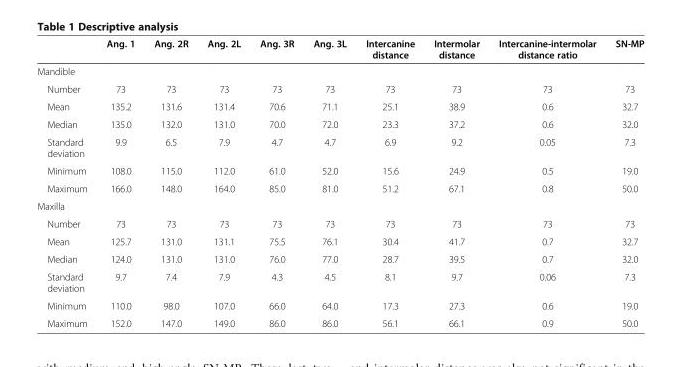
<table><thead><tr><td></td><td>Ang. 1</td><td>Ang. 2R</td><td>Ang. 2L</td><td>Ang. 3R</td><td>Ang. 3L</td><td>Intercanine distance</td><td>Intermolar distance</td><td>Intercanine-intermolar distance ratio</td><td>SN-MP</td></tr></thead><tbody><tr><td colspan="10">Mandible</td></tr><tr><td>Number</td><td>73</td><td>73</td><td>73</td><td>73</td><td>73</td><td>73</td><td>73</td><td>73</td><td>73</td></tr><tr><td>Mean</td><td>135.2</td><td>131.6</td><td>131.4</td><td>70.6</td><td>71.1</td><td>25.1</td><td>38.9</td><td>0.6</td><td>32.7</td></tr><tr><td>Median</td><td>135.0</td><td>132.0</td><td>131.0</td><td>70.0</td><td>72.0</td><td>23.3</td><td>37.2</td><td>0.6</td><td>32.0</td></tr><tr><td>Standard deviation</td><td>9.9</td><td>6.5</td><td>7.9</td><td>4.7</td><td>4.7</td><td>6.9</td><td>9.2</td><td>0.05</td><td>7.3</td></tr><tr><td>Minimum</td><td>108.0</td><td>115.0</td><td>112.0</td><td>61.0</td><td>52.0</td><td>15.6</td><td>24.9</td><td>0.5</td><td>19.0</td></tr><tr><td>Maximum</td><td>166.0</td><td>148.0</td><td>164.0</td><td>85.0</td><td>81.0</td><td>51.2</td><td>67.1</td><td>0.8</td><td>50.0</td></tr><tr><td colspan="10">Maxilla</td></tr><tr><td>Number</td><td>73</td><td>73</td><td>73</td><td>73</td><td>73</td><td>73</td><td>73</td><td>73</td><td>73</td></tr><tr><td>Mean</td><td>125.7</td><td>131.0</td><td>131.1</td><td>75.5</td><td>76.1</td><td>30.4</td><td>41.7</td><td>0.7</td><td>32.7</td></tr><tr><td>Median</td><td>124.0</td><td>131.0</td><td>131.0</td><td>76.0</td><td>77.0</td><td>28.7</td><td>39.5</td><td>0.7</td><td>32.0</td></tr><tr><td>Standard deviation</td><td>9.7</td><td>7.4</td><td>7.9</td><td>4.3</td><td>4.5</td><td>8.1</td><td>9.7</td><td>0.06</td><td>7.3</td></tr><tr><td>Minimum</td><td>110.0</td><td>98.0</td><td>107.0</td><td>66.0</td><td>64.0</td><td>17.3</td><td>27.3</td><td>0.6</td><td>19.0</td></tr><tr><td>Maximum</td><td>152.0</td><td>147.0</td><td>149.0</td><td>86.0</td><td>86.0</td><td>56.1</td><td>66.1</td><td>0.9</td><td>50.0</td></tr></tbody></table>